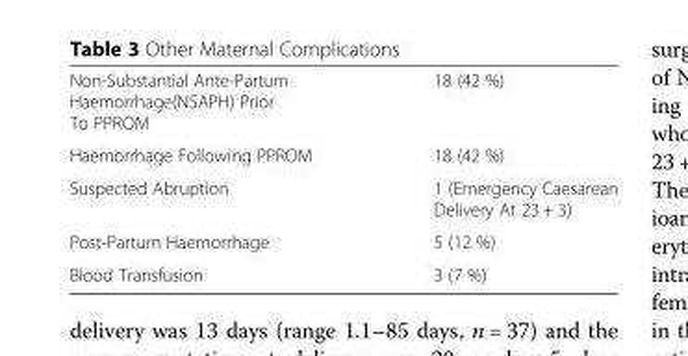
<table><tbody><tr><td>Non-Substantial Ante-Partum Haemorrhage(NSAPH) Prior To PPROM</td><td>18 (42 %)</td></tr><tr><td>Haemorrhage Following PPROM</td><td>18 (42 %)</td></tr><tr><td>Suspected Abruption</td><td>1 (Emergency Caesarean Delivery At 23 + 3)</td></tr><tr><td>Post-Partum Haemorrhage</td><td>5 (12 %)</td></tr><tr><td>Blood Transfusion</td><td>3 (7 %)</td></tr></tbody></table>